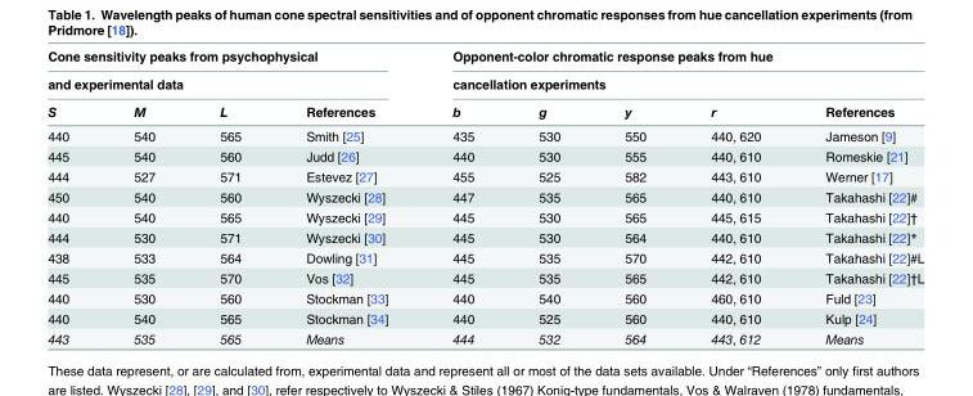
<table><thead><tr><td rowspan="2" colspan="4">Cone sensitivity peaks from psychophysical and experimental data</td><td rowspan="2" colspan="5">Opponent-color chromatic response peaks from hue cancellation experiments</td></tr><tr></tr><tr><td>S</td><td>M</td><td>L</td><td>References</td><td>b</td><td>g</td><td>y</td><td>r</td><td>References</td></tr></thead><tbody><tr><td>440</td><td>540</td><td>565</td><td>Smith [25]</td><td>435</td><td>530</td><td>550</td><td>440, 620</td><td>Jameson [9]</td></tr><tr><td>445</td><td>540</td><td>560</td><td>Judd [26]</td><td>440</td><td>530</td><td>555</td><td>440, 610</td><td>Romeskie [21]</td></tr><tr><td>444</td><td>527</td><td>571</td><td>Estevez [27]</td><td>455</td><td>525</td><td>582</td><td>443, 610</td><td>Werner [17]</td></tr><tr><td>450</td><td>540</td><td>560</td><td>Wyszecki [28]</td><td>447</td><td>535</td><td>565</td><td>440, 610</td><td>Takahashi [22]#</td></tr><tr><td>440</td><td>540</td><td>565</td><td>Wyszecki [29]</td><td>445</td><td>530</td><td>565</td><td>445, 615</td><td>Takahashi [22]†</td></tr><tr><td>444</td><td>530</td><td>571</td><td>Wyszecki [30]</td><td>445</td><td>530</td><td>564</td><td>440, 610</td><td>Takahashi [22]*</td></tr><tr><td>438</td><td>533</td><td>564</td><td>Dowling [31]</td><td>445</td><td>535</td><td>570</td><td>442, 610</td><td>Takahashi [22]#L</td></tr><tr><td>445</td><td>535</td><td>570</td><td>Vos [32]</td><td>445</td><td>535</td><td>565</td><td>442, 610</td><td>Takahashi [22]†L</td></tr><tr><td>440</td><td>530</td><td>560</td><td>Stockman [33]</td><td>440</td><td>540</td><td>560</td><td>460, 610</td><td>Fuld [23]</td></tr><tr><td>440</td><td>540</td><td>565</td><td>Stockman [34]</td><td>440</td><td>525</td><td>560</td><td>440, 610</td><td>Kulp [24]</td></tr><tr><td>443</td><td>535</td><td>565</td><td>Means</td><td>444</td><td>532</td><td>564</td><td>443, 612</td><td>Means</td></tr></tbody></table>